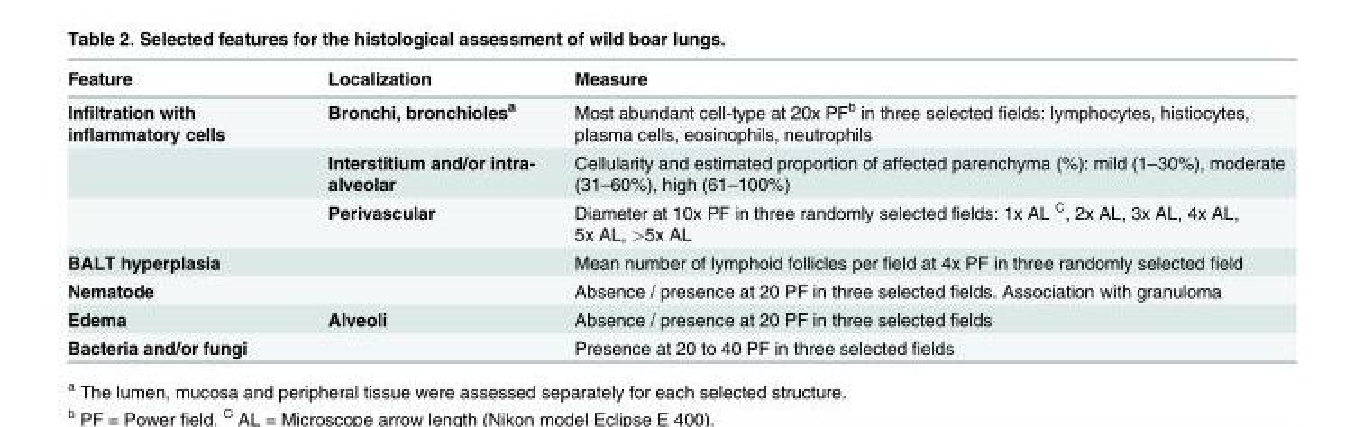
<table><thead><tr><td>Feature</td><td>Localization</td><td>Measure</td></tr></thead><tbody><tr><td rowspan="3">Infiltration with inflammatory cells</td><td>Bronchi, bronchioles<sup>a</sup></td><td>Most abundant cell-type at 20x PF<sup>b</sup> in three selected fields: lymphocytes, histiocytes, plasma cells, eosinophils, neutrophils</td></tr><tr><td>Interstitium and/or intra- alveolar</td><td>Cellularity and estimated proportion of affected parenchyma (%): mild (1–30%), moderate (31–60%), high (61–100%)</td></tr><tr><td>Perivascular</td><td>Diameter at 10x PF in three randomly selected fields: 1x AL <sup>C</sup>, 2x AL, 3x AL, 4x AL, 5x AL, &gt;5x AL</td></tr><tr><td>BALT hyperplasia</td><td></td><td>Mean number of lymphoid follicles per field at 4x PF in three randomly selected field</td></tr><tr><td>Nematode</td><td></td><td>Absence / presence at 20 PF in three selected fields. Association with granuloma</td></tr><tr><td>Edema</td><td>Alveoli</td><td>Absence / presence at 20 PF in three selected fields</td></tr><tr><td>Bacteria and/or fungi</td><td></td><td>Presence at 20 to 40 PF in three selected fields</td></tr></tbody></table>